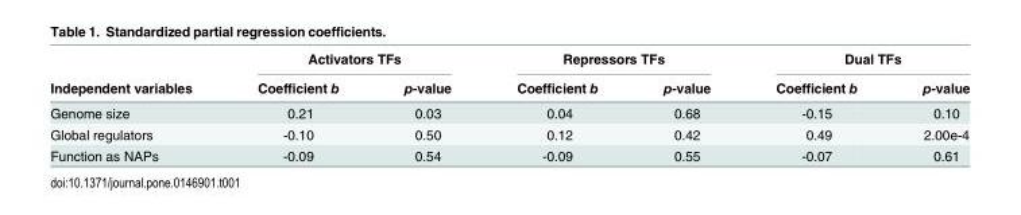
<table><thead><tr><td rowspan="2">Independent variables</td><td colspan="2">Activators TFs</td><td colspan="2">Repressors TFs</td><td colspan="2">Dual TFs</td></tr><tr><td>Coefficient b</td><td>p-value</td><td>Coefficient b</td><td>p-value</td><td>Coefficient b</td><td>p-value</td></tr></thead><tbody><tr><td>Genome size</td><td>0.21</td><td>0.03</td><td>0.04</td><td>0.68</td><td>-0.15</td><td>0.10</td></tr><tr><td>Global regulators</td><td>-0.10</td><td>0.50</td><td>0.12</td><td>0.42</td><td>0.49</td><td>2.00e-4</td></tr><tr><td>Function as NAPs</td><td>-0.09</td><td>0.54</td><td>-0.09</td><td>0.55</td><td>-0.07</td><td>0.61</td></tr></tbody></table>